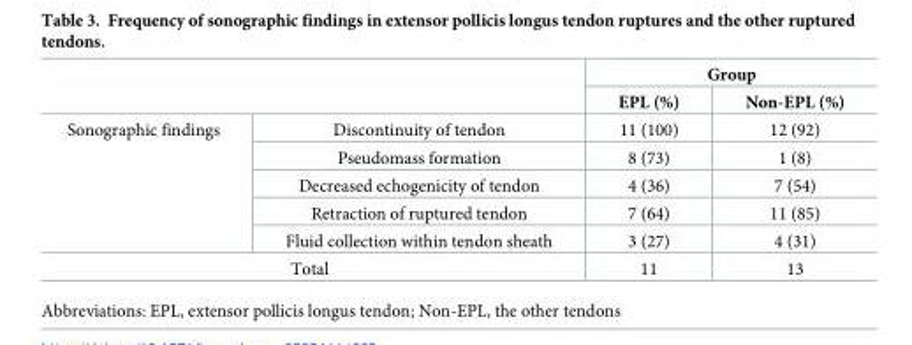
<table><thead><tr><td rowspan="2"></td><td rowspan="2"></td><td colspan="2">Group</td></tr><tr><td>EPL (%)</td><td>Non-EPL (%)</td></tr></thead><tbody><tr><td rowspan="5">Sonographic findings</td><td>Discontinuity of tendon</td><td>11 (100)</td><td>12 (92)</td></tr><tr><td>Pseudomass formation</td><td>8 (73)</td><td>1 (8)</td></tr><tr><td>Decreased echogenicity of tendon</td><td>4 (36)</td><td>7 (54)</td></tr><tr><td>Retraction of ruptured tendon</td><td>7 (64)</td><td>11 (85)</td></tr><tr><td>Fluid collection within tendon sheath</td><td>3 (27)</td><td>4 (31)</td></tr><tr><td colspan="2">Total</td><td>11</td><td>13</td></tr></tbody></table>